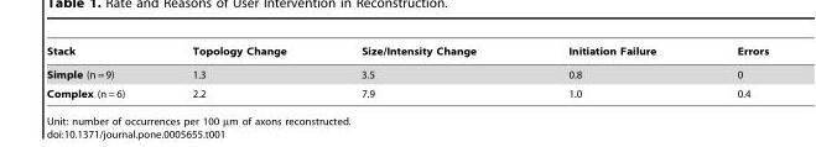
<table><thead><tr><td>Stack</td><td>Topology Change</td><td>Size/Intensity Change</td><td>Initiation Failure</td><td>Errors</td></tr></thead><tbody><tr><td>Simple (n = 9)</td><td>1.3</td><td>3.5</td><td>0.8</td><td>0</td></tr><tr><td>Complex (n = 6)</td><td>2.2</td><td>7.9</td><td>1.0</td><td>0.4</td></tr></tbody></table>